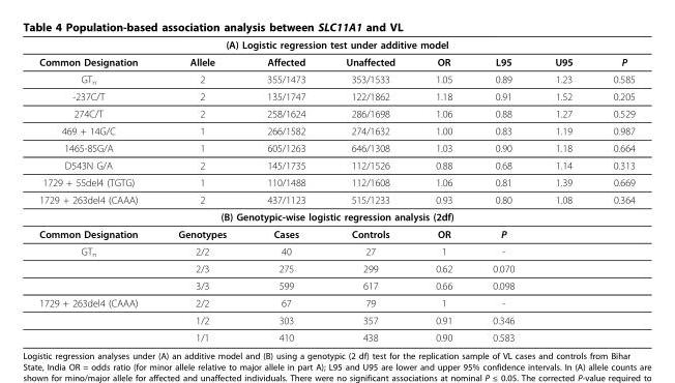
<table><thead><tr><td colspan="8">(A) Logistic regression test under additive model</td></tr><tr><td>Common Designation</td><td>Allele</td><td>Affected</td><td>Unaffected</td><td>OR</td><td>L95</td><td>U95</td><td>P</td></tr></thead><tbody><tr><td>GT<sub>n</sub></td><td>2</td><td>355/1473</td><td>353/1533</td><td>1.05</td><td>0.89</td><td>1.23</td><td>0.585</td></tr><tr><td>-237C/T</td><td>2</td><td>135/1747</td><td>122/1862</td><td>1.18</td><td>0.91</td><td>1.52</td><td>0.205</td></tr><tr><td>274C/T</td><td>2</td><td>258/1624</td><td>286/1698</td><td>1.06</td><td>0.88</td><td>1.27</td><td>0.529</td></tr><tr><td>469 + 14G/C</td><td>1</td><td>266/1582</td><td>274/1632</td><td>1.00</td><td>0.83</td><td>1.19</td><td>0.987</td></tr><tr><td>1465-85G/A</td><td>1</td><td>605/1263</td><td>646/1308</td><td>1.03</td><td>0.90</td><td>1.18</td><td>0.664</td></tr><tr><td>D543N G/A</td><td>2</td><td>145/1735</td><td>112/1526</td><td>0.88</td><td>0.68</td><td>1.14</td><td>0.313</td></tr><tr><td>1729 + 55del4 (TGTG)</td><td>1</td><td>110/1488</td><td>112/1608</td><td>1.06</td><td>0.81</td><td>1.39</td><td>0.669</td></tr><tr><td>1729 + 263del4 (CAAA)</td><td>2</td><td>437/1123</td><td>515/1233</td><td>0.93</td><td>0.80</td><td>1.08</td><td>0.364</td></tr><tr><td colspan="8">(B) Genotypic-wise logistic regression analysis (2df)</td></tr><tr><td>Common Designation</td><td>Genotypes</td><td>Cases</td><td>Controls</td><td>OR</td><td>P</td><td></td><td></td></tr><tr><td rowspan="3">GT<sub>n</sub></td><td>2/2</td><td>40</td><td>27</td><td>1</td><td>-</td><td></td><td></td></tr><tr><td>2/3</td><td>275</td><td>299</td><td>0.62</td><td>0.070</td><td></td><td></td></tr><tr><td>3/3</td><td>599</td><td>617</td><td>0.66</td><td>0.098</td><td></td><td></td></tr><tr><td rowspan="3">1729 + 263del4 (CAAA)</td><td>2/2</td><td>67</td><td>79</td><td>1</td><td>-</td><td></td><td></td></tr><tr><td>1/2</td><td>303</td><td>357</td><td>0.91</td><td>0.346</td><td></td><td></td></tr><tr><td>1/1</td><td>410</td><td>438</td><td>0.90</td><td>0.583</td><td></td><td></td></tr></tbody></table>